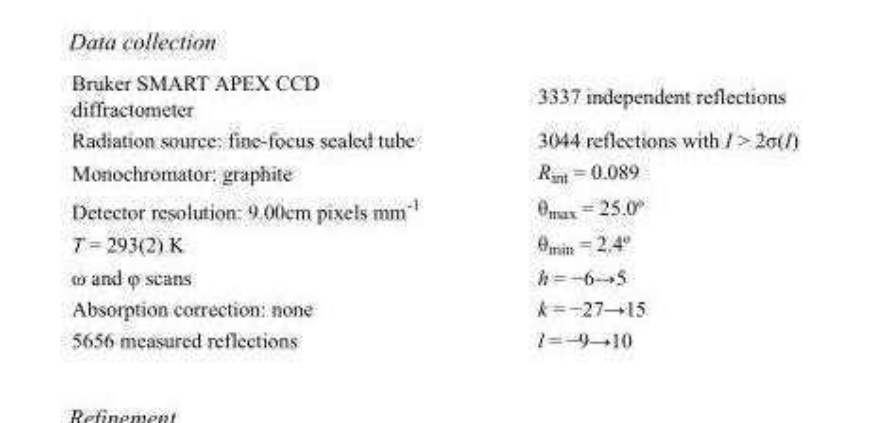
<table><tbody><tr><td>Bruker SMART APEX CCD diffractometer</td><td>3337 independent reflections</td></tr><tr><td>Radiation source: fine-focus sealed tube</td><td>3044 reflections with I &gt; 2σ(I)</td></tr><tr><td>Monochromator: graphite</td><td>R<sub>int</sub> = 0.089</td></tr><tr><td>Detector resolution: 9.00cm pixels mm<sup>-1</sup></td><td>θ<sub>max</sub> = 25.0º</td></tr><tr><td>T = 293(2) K</td><td>θ<sub>min</sub> = 2.4º</td></tr><tr><td>ω and φ scans</td><td>h = −6→5</td></tr><tr><td>Absorption correction: none</td><td>k = −27→15</td></tr><tr><td>5656 measured reflections</td><td>l = −9→10</td></tr></tbody></table>